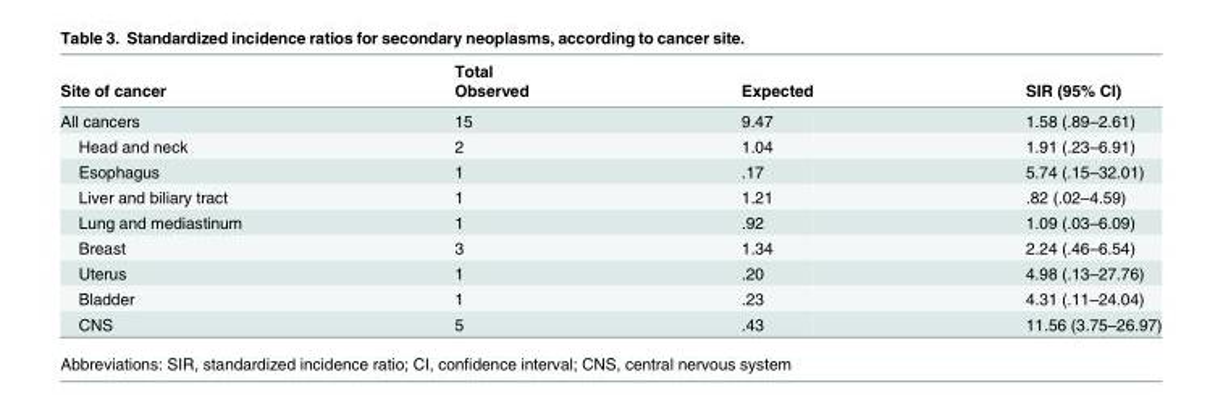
<table><thead><tr><td rowspan="2">Site of cancer</td><td rowspan="2">Total Observed</td><td rowspan="2">Expected</td><td rowspan="2">SIR (95% CI)</td></tr><tr></tr></thead><tbody><tr><td>All cancers</td><td>15</td><td>9.47</td><td>1.58 (.89–2.61)</td></tr><tr><td>Head and neck</td><td>2</td><td>1.04</td><td>1.91 (.23–6.91)</td></tr><tr><td>Esophagus</td><td>1</td><td>.17</td><td>5.74 (.15–32.01)</td></tr><tr><td>Liver and biliary tract</td><td>1</td><td>1.21</td><td>.82 (.02–4.59)</td></tr><tr><td>Lung and mediastinum</td><td>1</td><td>.92</td><td>1.09 (.03–6.09)</td></tr><tr><td>Breast</td><td>3</td><td>1.34</td><td>2.24 (.46–6.54)</td></tr><tr><td>Uterus</td><td>1</td><td>.20</td><td>4.98 (.13–27.76)</td></tr><tr><td>Bladder</td><td>1</td><td>.23</td><td>4.31 (.11–24.04)</td></tr><tr><td>CNS</td><td>5</td><td>.43</td><td>11.56 (3.75–26.97)</td></tr></tbody></table>